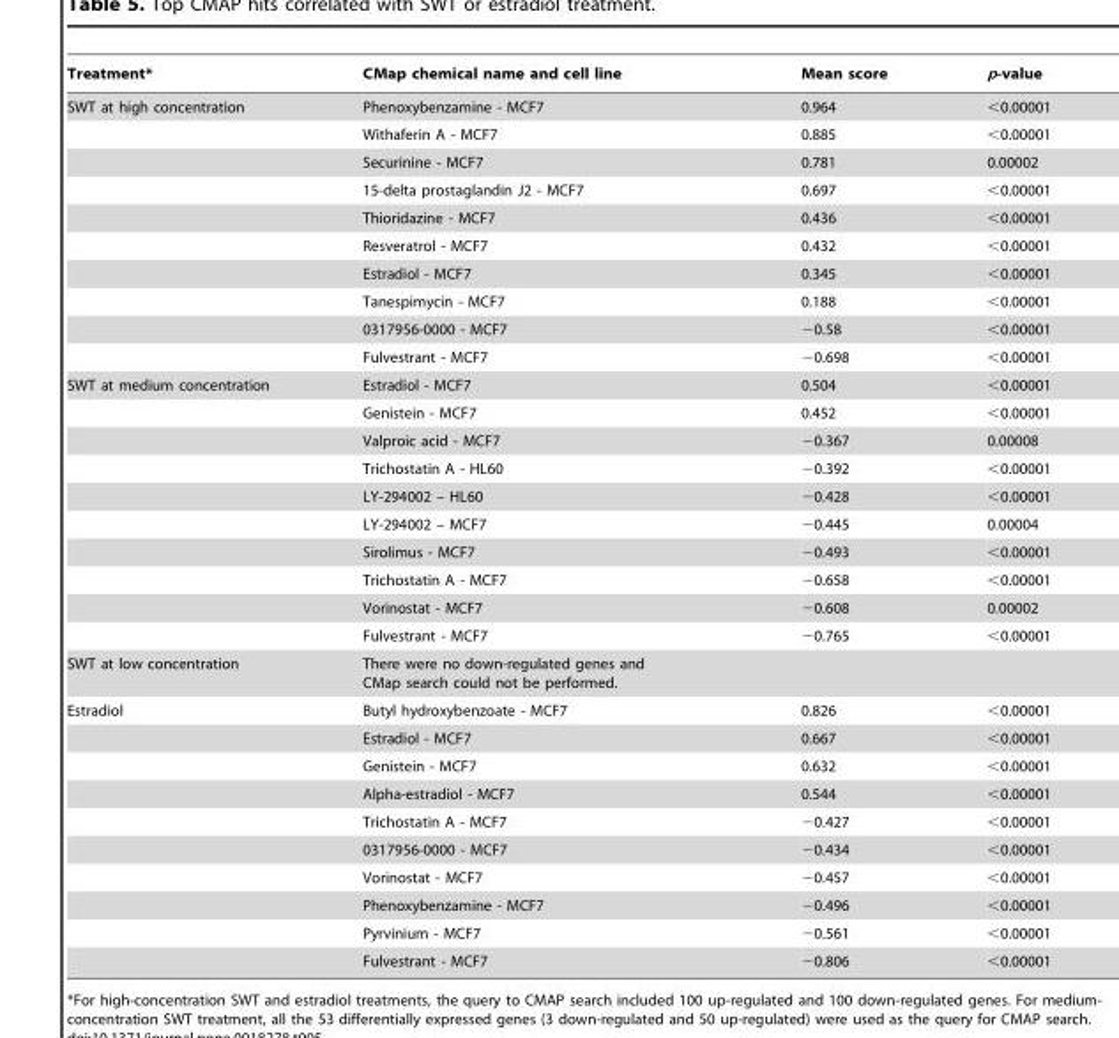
<table><thead><tr><td>Treatment*</td><td>CMap chemical name and cell line</td><td>Mean score</td><td>p-value</td></tr></thead><tbody><tr><td rowspan="10">SWT at high concentration</td><td>Phenoxybenzamine - MCF7</td><td>0.964</td><td>&lt;0.00001</td></tr><tr><td>Withaferin A - MCF7</td><td>0.885</td><td>&lt;0.00001</td></tr><tr><td>Securinine - MCF7</td><td>0.781</td><td>0.00002</td></tr><tr><td>15-delta prostaglandin J2 - MCF7</td><td>0.697</td><td>&lt;0.00001</td></tr><tr><td>Thioridazine - MCF7</td><td>0.436</td><td>&lt;0.00001</td></tr><tr><td>Resveratrol - MCF7</td><td>0.432</td><td>&lt;0.00001</td></tr><tr><td>Estradiol - MCF7</td><td>0.345</td><td>&lt;0.00001</td></tr><tr><td>Tanespimycin - MCF7</td><td>0.188</td><td>&lt;0.00001</td></tr><tr><td>0317956-0000 - MCF7</td><td>−0.58</td><td>&lt;0.00001</td></tr><tr><td>Fulvestrant - MCF7</td><td>−0.698</td><td>&lt;0.00001</td></tr><tr><td rowspan="10">SWT at medium concentration</td><td>Estradiol - MCF7</td><td>0.504</td><td>&lt;0.00001</td></tr><tr><td>Genistein - MCF7</td><td>0.452</td><td>&lt;0.00001</td></tr><tr><td>Valproic acid - MCF7</td><td>−0.367</td><td>0.00008</td></tr><tr><td>Trichostatin A - HL60</td><td>−0.392</td><td>&lt;0.00001</td></tr><tr><td>LY-294002 – HL60</td><td>−0.428</td><td>&lt;0.00001</td></tr><tr><td>LY-294002 – MCF7</td><td>−0.445</td><td>0.00004</td></tr><tr><td>Sirolimus - MCF7</td><td>−0.493</td><td>&lt;0.00001</td></tr><tr><td>Trichostatin A - MCF7</td><td>−0.658</td><td>&lt;0.00001</td></tr><tr><td>Vorinostat - MCF7</td><td>−0.608</td><td>0.00002</td></tr><tr><td>Fulvestrant - MCF7</td><td>−0.765</td><td>&lt;0.00001</td></tr><tr><td>SWT at low concentration</td><td colspan="3">There were no down-regulated genes and CMap search could not be performed.</td></tr><tr><td rowspan="10">Estradiol</td><td>Butyl hydroxybenzoate - MCF7</td><td>0.826</td><td>&lt;0.00001</td></tr><tr><td>Estradiol - MCF7</td><td>0.667</td><td>&lt;0.00001</td></tr><tr><td>Genistein - MCF7</td><td>0.632</td><td>&lt;0.00001</td></tr><tr><td>Alpha-estradiol - MCF7</td><td>0.544</td><td>&lt;0.00001</td></tr><tr><td>Trichostatin A - MCF7</td><td>−0.427</td><td>&lt;0.00001</td></tr><tr><td>0317956-0000 - MCF7</td><td>−0.434</td><td>&lt;0.00001</td></tr><tr><td>Vorinostat - MCF7</td><td>−0.457</td><td>&lt;0.00001</td></tr><tr><td>Phenoxybenzamine - MCF7</td><td>−0.496</td><td>&lt;0.00001</td></tr><tr><td>Pyrvinium - MCF7</td><td>−0.561</td><td>&lt;0.00001</td></tr><tr><td>Fulvestrant - MCF7</td><td>−0.806</td><td>&lt;0.00001</td></tr></tbody></table>